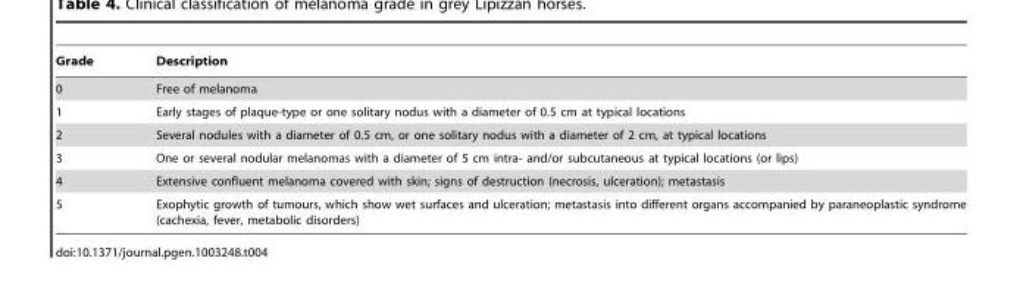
<table><thead><tr><td>Grade</td><td>Description</td></tr></thead><tbody><tr><td>0</td><td>Free of melanoma</td></tr><tr><td>1</td><td>Early stages of plaque-type or one solitary nodus with a diameter of 0.5 cm at typical locations</td></tr><tr><td>2</td><td>Several nodules with a diameter of 0.5 cm, or one solitary nodus with a diameter of 2 cm, at typical locations</td></tr><tr><td>3</td><td>One or several nodular melanomas with a diameter of 5 cm intra- and/or subcutaneous at typical locations (or lips)</td></tr><tr><td>4</td><td>Extensive confluent melanoma covered with skin; signs of destruction (necrosis, ulceration); metastasis</td></tr><tr><td>5</td><td>Exophytic growth of tumours, which show wet surfaces and ulceration; metastasis into different organs accompanied by paraneoplastic syndrome (cachexia, fever, metabolic disorders)</td></tr></tbody></table>